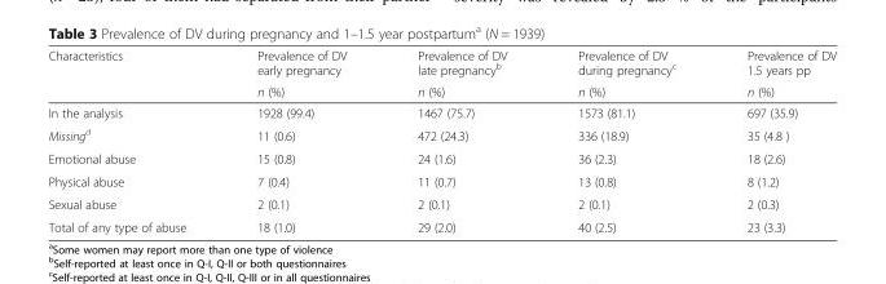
<table><thead><tr><td rowspan="2">Characteristics</td><td rowspan="2">Prevalence of DV early pregnancy n (%)</td><td rowspan="2">Prevalence of DV late pregnancy<sup>b</sup> n (%)</td><td rowspan="2">Prevalence of DV during pregnancy<sup>c</sup> n (%)</td><td rowspan="2">Prevalence of DV 1.5 years pp n (%)</td></tr><tr></tr></thead><tbody><tr><td>In the analysis</td><td>1928 (99.4)</td><td>1467 (75.7)</td><td>1573 (81.1)</td><td>697 (35.9)</td></tr><tr><td>Missing<sup>d</sup></td><td>11 (0.6)</td><td>472 (24.3)</td><td>336 (18.9)</td><td>35 (4.8 )</td></tr><tr><td>Emotional abuse</td><td>15 (0.8)</td><td>24 (1.6)</td><td>36 (2.3)</td><td>18 (2.6)</td></tr><tr><td>Physical abuse</td><td>7 (0.4)</td><td>11 (0.7)</td><td>13 (0.8)</td><td>8 (1.2)</td></tr><tr><td>Sexual abuse</td><td>2 (0.1)</td><td>2 (0.1)</td><td>2 (0.1)</td><td>2 (0.3)</td></tr><tr><td>Total of any type of abuse</td><td>18 (1.0)</td><td>29 (2.0)</td><td>40 (2.5)</td><td>23 (3.3)</td></tr></tbody></table>